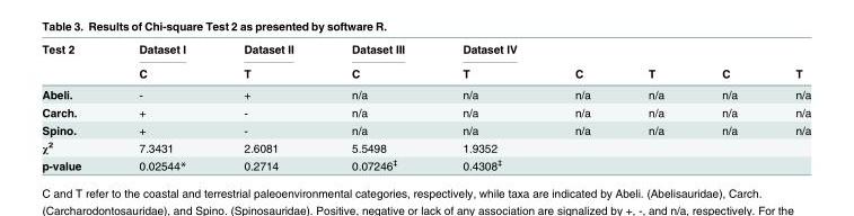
<table><thead><tr><td rowspan="2">Test 2</td><td rowspan="2">Dataset I C</td><td rowspan="2">Dataset II T</td><td rowspan="2">Dataset III C</td><td rowspan="2">Dataset IV T</td><td rowspan="2">C</td><td rowspan="2">T</td><td rowspan="2">C</td><td rowspan="2">T</td></tr><tr></tr></thead><tbody><tr><td>Abeli.</td><td>-</td><td>+</td><td>n/a</td><td>n/a</td><td>n/a</td><td>n/a</td><td>n/a</td><td>n/a</td></tr><tr><td>Carch.</td><td>+</td><td>-</td><td>n/a</td><td>n/a</td><td>n/a</td><td>n/a</td><td>n/a</td><td>n/a</td></tr><tr><td>Spino.</td><td>+</td><td>-</td><td>n/a</td><td>n/a</td><td>n/a</td><td>n/a</td><td>n/a</td><td>n/a</td></tr><tr><td>χ<sup>2</sup></td><td>7.3431</td><td>2.6081</td><td>5.5498</td><td>1.9352</td><td></td><td></td><td></td><td></td></tr><tr><td>p-value</td><td>0.02544*</td><td>0.2714</td><td>0.07246<sup>‡</sup></td><td>0.4308<sup>‡</sup></td><td></td><td></td><td></td><td></td></tr></tbody></table>